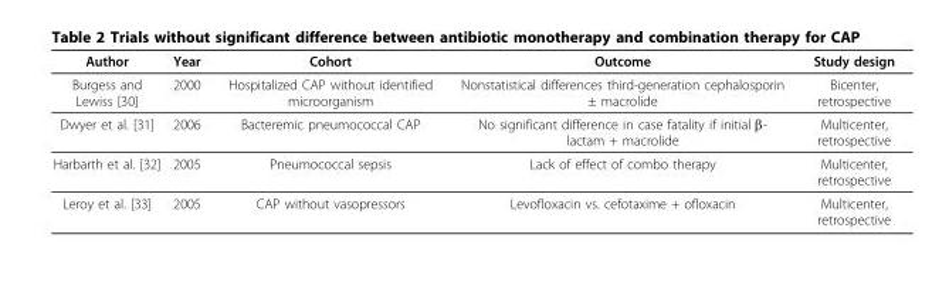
<table><thead><tr><td>Author</td><td>Year</td><td>Cohort</td><td>Outcome</td><td>Study design</td></tr></thead><tbody><tr><td>Burgess and Lewiss [30]</td><td>2000</td><td>Hospitalized CAP without identified microorganism</td><td>Nonstatistical differences third-generation cephalosporin ± macrolide</td><td>Bicenter, retrospective</td></tr><tr><td>Dwyer et al. [31]</td><td>2006</td><td>Bacteremic pneumococcal CAP</td><td>No significant difference in case fatality if initial β- lactam + macrolide</td><td>Multicenter, retrospective</td></tr><tr><td>Harbarth et al. [32]</td><td>2005</td><td>Pneumococcal sepsis</td><td>Lack of effect of combo therapy</td><td>Multicenter, retrospective</td></tr><tr><td>Leroy et al. [33]</td><td>2005</td><td>CAP without vasopressors</td><td>Levofloxacin vs. cefotaxime + ofloxacin</td><td>Multicenter, retrospective</td></tr></tbody></table>